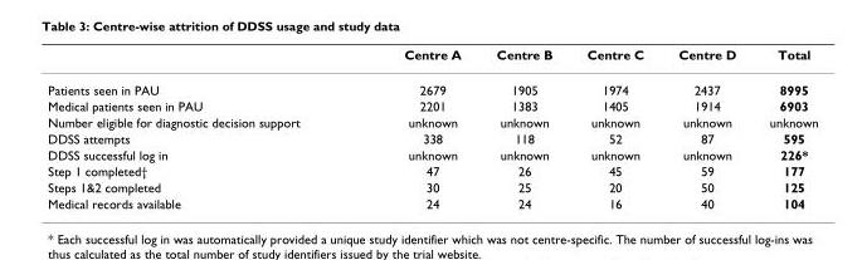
<table><thead><tr><td></td><td>Centre A</td><td>Centre B</td><td>Centre C</td><td>Centre D</td><td>Total</td></tr></thead><tbody><tr><td>Patients seen in PAU</td><td>2679</td><td>1905</td><td>1974</td><td>2437</td><td>8995</td></tr><tr><td>Medical patients seen in PAU</td><td>2201</td><td>1383</td><td>1405</td><td>1914</td><td>6903</td></tr><tr><td>Number eligible for diagnostic decision support</td><td>unknown</td><td>unknown</td><td>unknown</td><td>unknown</td><td>unknown</td></tr><tr><td>DDSS attempts</td><td>338</td><td>118</td><td>52</td><td>87</td><td>595</td></tr><tr><td>DDSS successful log in</td><td>unknown</td><td>unknown</td><td>unknown</td><td>unknown</td><td>226*</td></tr><tr><td>Step 1 completed†</td><td>47</td><td>26</td><td>45</td><td>59</td><td>177</td></tr><tr><td>Steps 1&amp;2 completed</td><td>30</td><td>25</td><td>20</td><td>50</td><td>125</td></tr><tr><td>Medical records available</td><td>24</td><td>24</td><td>16</td><td>40</td><td>104</td></tr></tbody></table>